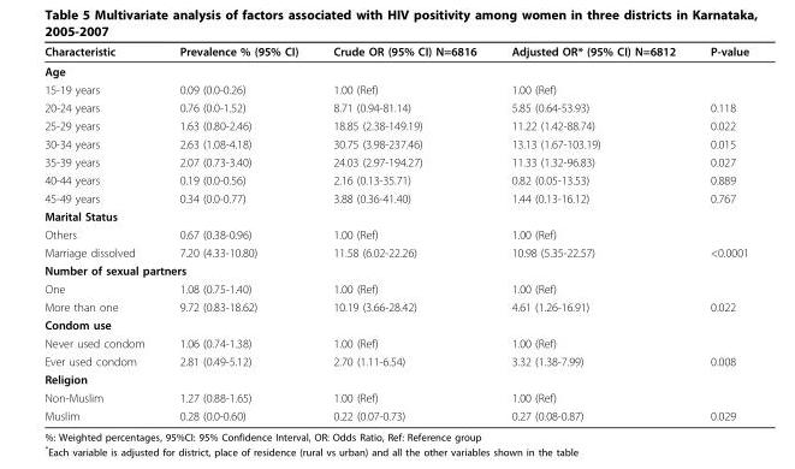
<table><thead><tr><td>Characteristic</td><td>Prevalence % (95% CI)</td><td>Crude OR (95% CI) N=6816</td><td>Adjusted OR* (95% CI) N=6812</td><td>P-value</td></tr></thead><tbody><tr><td colspan="5">Age</td></tr><tr><td>15-19 years</td><td>0.09 (0.0-0.26)</td><td>1.00 (Ref)</td><td>1.00 (Ref)</td><td></td></tr><tr><td>20-24 years</td><td>0.76 (0.0-1.52)</td><td>8.71 (0.94-81.14)</td><td>5.85 (0.64-53.93)</td><td>0.118</td></tr><tr><td>25-29 years</td><td>1.63 (0.80-2.46)</td><td>18.85 (2.38-149.19)</td><td>11.22 (1.42-88.74)</td><td>0.022</td></tr><tr><td>30-34 years</td><td>2.63 (1.08-4.18)</td><td>30.75 (3.98-237.46)</td><td>13.13 (1.67-103.19)</td><td>0.015</td></tr><tr><td>35-39 years</td><td>2.07 (0.73-3.40)</td><td>24.03 (2.97-194.27)</td><td>11.33 (1.32-96.83)</td><td>0.027</td></tr><tr><td>40-44 years</td><td>0.19 (0.0-0.56)</td><td>2.16 (0.13-35.71)</td><td>0.82 (0.05-13.53)</td><td>0.889</td></tr><tr><td>45-49 years</td><td>0.34 (0.0-0.77)</td><td>3.88 (0.36-41.40)</td><td>1.44 (0.13-16.12)</td><td>0.767</td></tr><tr><td colspan="5">Marital Status</td></tr><tr><td>Others</td><td>0.67 (0.38-0.96)</td><td>1.00 (Ref)</td><td>1.00 (Ref)</td><td></td></tr><tr><td>Marriage dissolved</td><td>7.20 (4.33-10.80)</td><td>11.58 (6.02-22.26)</td><td>10.98 (5.35-22.57)</td><td>&lt;0.0001</td></tr><tr><td colspan="5">Number of sexual partners</td></tr><tr><td>One</td><td>1.08 (0.75-1.40)</td><td>1.00 (Ref)</td><td>1.00 (Ref)</td><td></td></tr><tr><td>More than one</td><td>9.72 (0.83-18.62)</td><td>10.19 (3.66-28.42)</td><td>4.61 (1.26-16.91)</td><td>0.022</td></tr><tr><td colspan="5">Condom use</td></tr><tr><td>Never used condom</td><td>1.06 (0.74-1.38)</td><td>1.00 (Ref)</td><td>1.00 (Ref)</td><td></td></tr><tr><td>Ever used condom</td><td>2.81 (0.49-5.12)</td><td>2.70 (1.11-6.54)</td><td>3.32 (1.38-7.99)</td><td>0.008</td></tr><tr><td colspan="5">Religion</td></tr><tr><td>Non-Muslim</td><td>1.27 (0.88-1.65)</td><td>1.00 (Ref)</td><td>1.00 (Ref)</td><td></td></tr><tr><td>Muslim</td><td>0.28 (0.0-0.60)</td><td>0.22 (0.07-0.73)</td><td>0.27 (0.08-0.87)</td><td>0.029</td></tr></tbody></table>